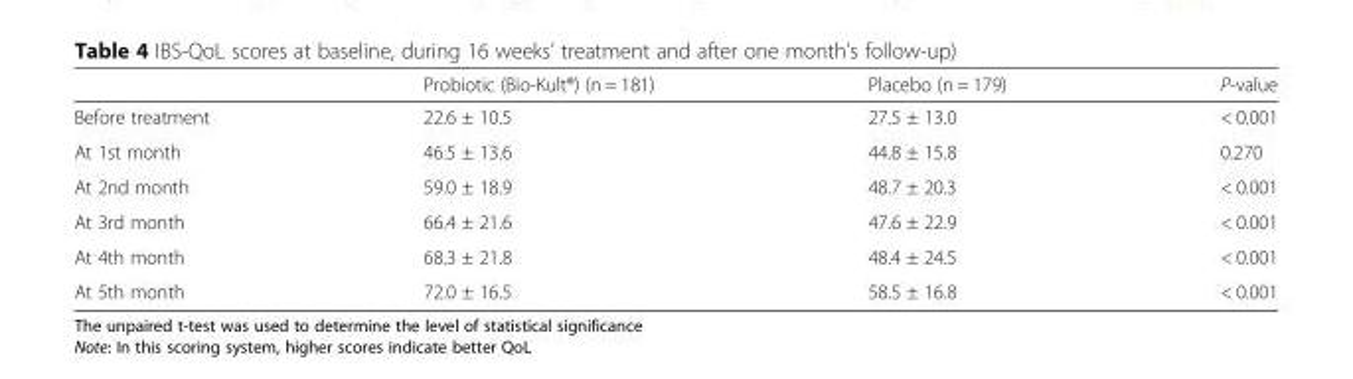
<table><thead><tr><td></td><td>Probiotic (Bio-Kult®) (n = 181)</td><td>Placebo (n = 179)</td><td>P-value</td></tr></thead><tbody><tr><td>Before treatment</td><td>22.6 ± 10.5</td><td>27.5 ± 13.0</td><td>&lt; 0.001</td></tr><tr><td>At 1st month</td><td>46.5 ± 13.6</td><td>44.8 ± 15.8</td><td>0.270</td></tr><tr><td>At 2nd month</td><td>59.0 ± 18.9</td><td>48.7 ± 20.3</td><td>&lt; 0.001</td></tr><tr><td>At 3rd month</td><td>66.4 ± 21.6</td><td>47.6 ± 22.9</td><td>&lt; 0.001</td></tr><tr><td>At 4th month</td><td>68.3 ± 21.8</td><td>48.4 ± 24.5</td><td>&lt; 0.001</td></tr><tr><td>At 5th month</td><td>72.0 ± 16.5</td><td>58.5 ± 16.8</td><td>&lt; 0.001</td></tr></tbody></table>